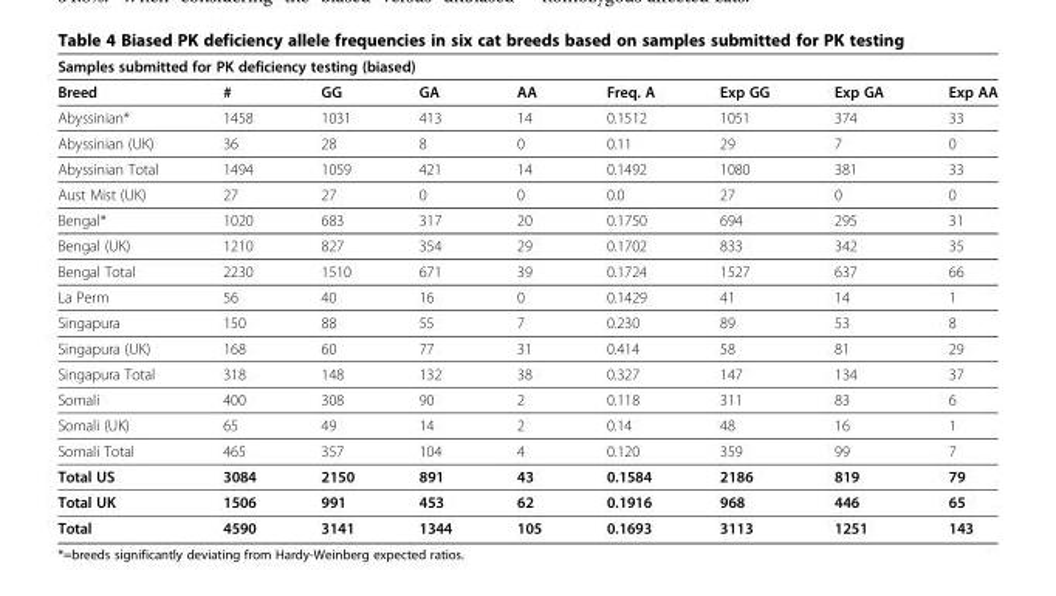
<table><thead><tr><td colspan="9">Samples submitted for PK deficiency testing (biased)</td></tr><tr><td>Breed</td><td>#</td><td>GG</td><td>GA</td><td>AA</td><td>Freq. A</td><td>Exp GG</td><td>Exp GA</td><td>Exp AA</td></tr></thead><tbody><tr><td>Abyssinian*</td><td>1458</td><td>1031</td><td>413</td><td>14</td><td>0.1512</td><td>1051</td><td>374</td><td>33</td></tr><tr><td>Abyssinian (UK)</td><td>36</td><td>28</td><td>8</td><td>0</td><td>0.11</td><td>29</td><td>7</td><td>0</td></tr><tr><td>Abyssinian Total</td><td>1494</td><td>1059</td><td>421</td><td>14</td><td>0.1492</td><td>1080</td><td>381</td><td>33</td></tr><tr><td>Aust Mist (UK)</td><td>27</td><td>27</td><td>0</td><td>0</td><td>0.0</td><td>27</td><td>0</td><td>0</td></tr><tr><td>Bengal*</td><td>1020</td><td>683</td><td>317</td><td>20</td><td>0.1750</td><td>694</td><td>295</td><td>31</td></tr><tr><td>Bengal (UK)</td><td>1210</td><td>827</td><td>354</td><td>29</td><td>0.1702</td><td>833</td><td>342</td><td>35</td></tr><tr><td>Bengal Total</td><td>2230</td><td>1510</td><td>671</td><td>39</td><td>0.1724</td><td>1527</td><td>637</td><td>66</td></tr><tr><td>La Perm</td><td>56</td><td>40</td><td>16</td><td>0</td><td>0.1429</td><td>41</td><td>14</td><td>1</td></tr><tr><td>Singapura</td><td>150</td><td>88</td><td>55</td><td>7</td><td>0.230</td><td>89</td><td>53</td><td>8</td></tr><tr><td>Singapura (UK)</td><td>168</td><td>60</td><td>77</td><td>31</td><td>0.414</td><td>58</td><td>81</td><td>29</td></tr><tr><td>Singapura Total</td><td>318</td><td>148</td><td>132</td><td>38</td><td>0.327</td><td>147</td><td>134</td><td>37</td></tr><tr><td>Somali</td><td>400</td><td>308</td><td>90</td><td>2</td><td>0.118</td><td>311</td><td>83</td><td>6</td></tr><tr><td>Somali (UK)</td><td>65</td><td>49</td><td>14</td><td>2</td><td>0.14</td><td>48</td><td>16</td><td>1</td></tr><tr><td>Somali Total</td><td>465</td><td>357</td><td>104</td><td>4</td><td>0.120</td><td>359</td><td>99</td><td>7</td></tr><tr><td>Total US</td><td>3084</td><td>2150</td><td>891</td><td>43</td><td>0.1584</td><td>2186</td><td>819</td><td>79</td></tr><tr><td>Total UK</td><td>1506</td><td>991</td><td>453</td><td>62</td><td>0.1916</td><td>968</td><td>446</td><td>65</td></tr><tr><td>Total</td><td>4590</td><td>3141</td><td>1344</td><td>105</td><td>0.1693</td><td>3113</td><td>1251</td><td>143</td></tr></tbody></table>